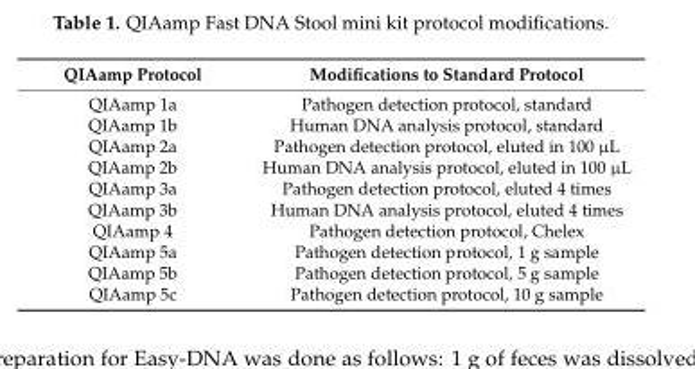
<table><thead><tr><td>QIAamp Protocol</td><td>Modifications to Standard Protocol</td></tr></thead><tbody><tr><td>QIAamp 1a</td><td>Pathogen detection protocol, standard</td></tr><tr><td>QIAamp 1b</td><td>Human DNA analysis protocol, standard</td></tr><tr><td>QIAamp 2a</td><td>Pathogen detection protocol, eluted in 100 µL</td></tr><tr><td>QIAamp 2b</td><td>Human DNA analysis protocol, eluted in 100 µL</td></tr><tr><td>QIAamp 3a</td><td>Pathogen detection protocol, eluted 4 times</td></tr><tr><td>QIAamp 3b</td><td>Human DNA analysis protocol, eluted 4 times</td></tr><tr><td>QIAamp 4</td><td>Pathogen detection protocol, Chelex</td></tr><tr><td>QIAamp 5a</td><td>Pathogen detection protocol, 1 g sample</td></tr><tr><td>QIAamp 5b</td><td>Pathogen detection protocol, 5 g sample</td></tr><tr><td>QIAamp 5c</td><td>Pathogen detection protocol, 10 g sample</td></tr></tbody></table>